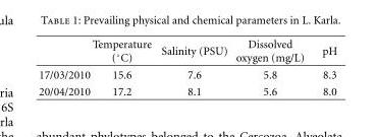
<table><thead><tr><td></td><td>Temperature (◦C)</td><td>Salinity (PSU)</td><td>Dissolved oxygen (mg/L)</td><td>pH</td></tr></thead><tbody><tr><td>17/03/2010</td><td>15.6</td><td>7.6</td><td>5.8</td><td>8.3</td></tr><tr><td>20/04/2010</td><td>17.2</td><td>8.1</td><td>5.6</td><td>8.0</td></tr></tbody></table>